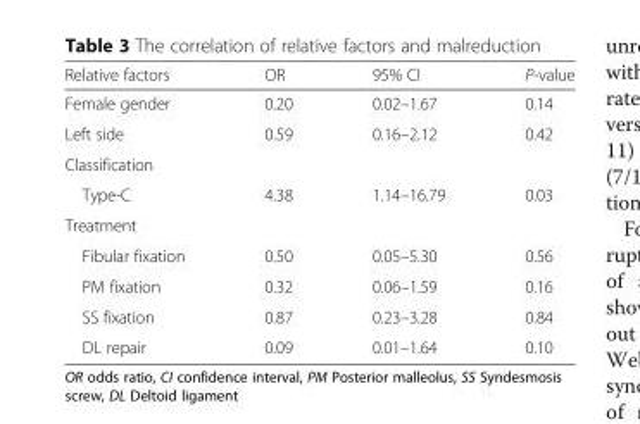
<table><thead><tr><td>Relative factors</td><td>OR</td><td>95% CI</td><td>P-value</td></tr></thead><tbody><tr><td>Female gender</td><td>0.20</td><td>0.02–1.67</td><td>0.14</td></tr><tr><td>Left side</td><td>0.59</td><td>0.16–2.12</td><td>0.42</td></tr><tr><td colspan="4">Classification</td></tr><tr><td>Type-C</td><td>4.38</td><td>1.14–16.79</td><td>0.03</td></tr><tr><td colspan="4">Treatment</td></tr><tr><td>Fibular fixation</td><td>0.50</td><td>0.05–5.30</td><td>0.56</td></tr><tr><td>PM fixation</td><td>0.32</td><td>0.06–1.59</td><td>0.16</td></tr><tr><td>SS fixation</td><td>0.87</td><td>0.23–3.28</td><td>0.84</td></tr><tr><td>DL repair</td><td>0.09</td><td>0.01–1.64</td><td>0.10</td></tr></tbody></table>